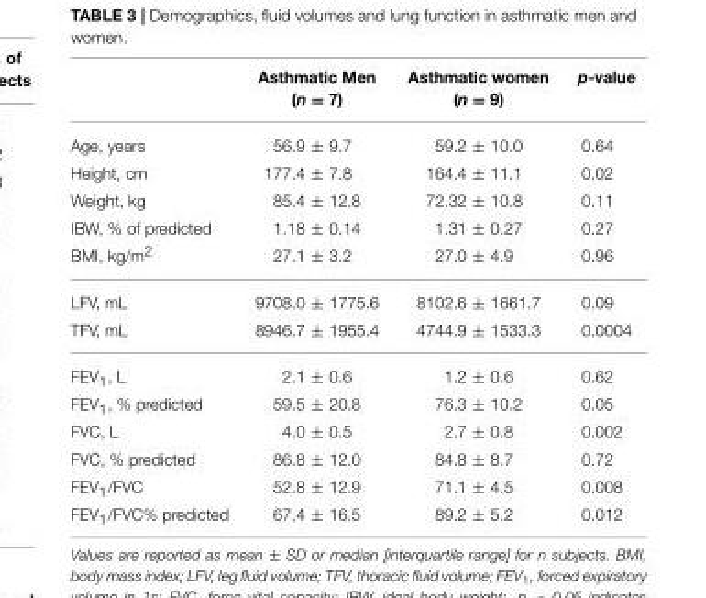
<table><thead><tr><td></td><td>Asthmatic Men (n = 7)</td><td>Asthmatic women (n = 9)</td><td>p-value</td></tr></thead><tbody><tr><td>Age, years</td><td>56.9 ± 9.7</td><td>59.2 ± 10.0</td><td>0.64</td></tr><tr><td>Height, cm</td><td>177.4 ± 7.8</td><td>164.4 ± 11.1</td><td>0.02</td></tr><tr><td>Weight, kg</td><td>85.4 ± 12.8</td><td>72.32 ± 10.8</td><td>0.11</td></tr><tr><td>IBW, % of predicted</td><td>1.18 ± 0.14</td><td>1.31 ± 0.27</td><td>0.27</td></tr><tr><td>BMI, kg/m<sup>2</sup></td><td>27.1 ± 3.2</td><td>27.0 ± 4.9</td><td>0.96</td></tr><tr><td>LFV, mL</td><td>9708.0 ± 1775.6</td><td>8102.6 ± 1661.7</td><td>0.09</td></tr><tr><td>TFV, mL</td><td>8946.7 ± 1955.4</td><td>4744.9 ± 1533.3</td><td>0.0004</td></tr><tr><td>FEV<sub>1</sub>, L</td><td>2.1 ± 0.6</td><td>1.2 ± 0.6</td><td>0.62</td></tr><tr><td>FEV<sub>1</sub>, % predicted</td><td>59.5 ± 20.8</td><td>76.3 ± 10.2</td><td>0.05</td></tr><tr><td>FVC, L</td><td>4.0 ± 0.5</td><td>2.7 ± 0.8</td><td>0.002</td></tr><tr><td>FVC, % predicted</td><td>86.8 ± 12.0</td><td>84.8 ± 8.7</td><td>0.72</td></tr><tr><td>FEV<sub>1</sub>/FVC</td><td>52.8 ± 12.9</td><td>71.1 ± 4.5</td><td>0.008</td></tr><tr><td>FEV<sub>1</sub>/FVC% predicted</td><td>67.4 ± 16.5</td><td>89.2 ± 5.2</td><td>0.012</td></tr></tbody></table>